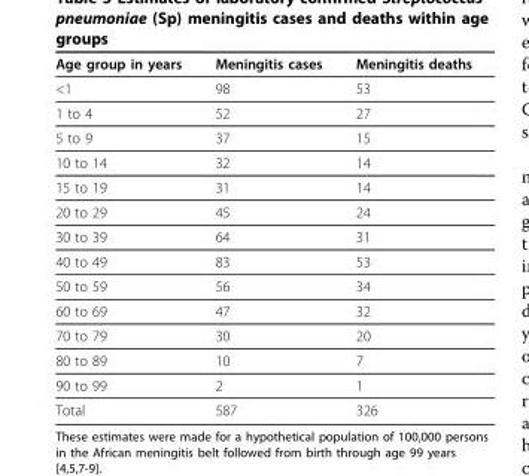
<table><thead><tr><td>Age group in years</td><td>Meningitis cases</td><td>Meningitis deaths</td></tr></thead><tbody><tr><td>&lt;1</td><td>98</td><td>53</td></tr><tr><td>1 to 4</td><td>52</td><td>27</td></tr><tr><td>5 to 9</td><td>37</td><td>15</td></tr><tr><td>10 to 14</td><td>32</td><td>14</td></tr><tr><td>15 to 19</td><td>31</td><td>14</td></tr><tr><td>20 to 29</td><td>45</td><td>24</td></tr><tr><td>30 to 39</td><td>64</td><td>31</td></tr><tr><td>40 to 49</td><td>83</td><td>53</td></tr><tr><td>50 to 59</td><td>56</td><td>34</td></tr><tr><td>60 to 69</td><td>47</td><td>32</td></tr><tr><td>70 to 79</td><td>30</td><td>20</td></tr><tr><td>80 to 89</td><td>10</td><td>7</td></tr><tr><td>90 to 99</td><td>2</td><td>1</td></tr><tr><td>Total</td><td>587</td><td>326</td></tr></tbody></table>